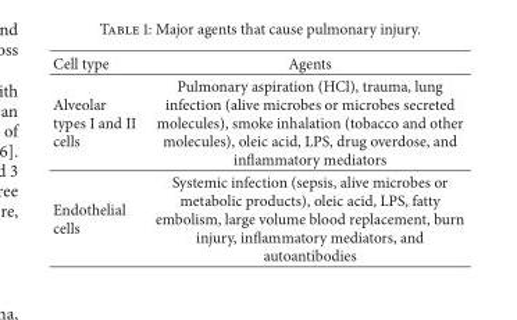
<table><thead><tr><td>Cell type</td><td>Agents</td></tr></thead><tbody><tr><td>Alveolar types I and II cells</td><td>Pulmonary aspiration (HCl), trauma, lung infection (alive microbes or microbes secreted molecules), smoke inhalation (tobacco and other molecules), oleic acid, LPS, drug overdose, and inflammatory mediators</td></tr><tr><td>Endothelial cells</td><td>Systemic infection (sepsis, alive microbes or metabolic products), oleic acid, LPS, fatty embolism, large volume blood replacement, burn injury, inflammatory mediators, and autoantibodies</td></tr></tbody></table>